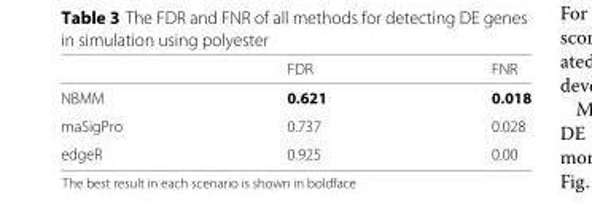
<table><thead><tr><td></td><td>FDR</td><td>FNR</td></tr></thead><tbody><tr><td>NBMM</td><td>0.621</td><td>0.018</td></tr><tr><td>maSigPro</td><td>0.737</td><td>0.028</td></tr><tr><td>edgeR</td><td>0.925</td><td>0.00</td></tr></tbody></table>